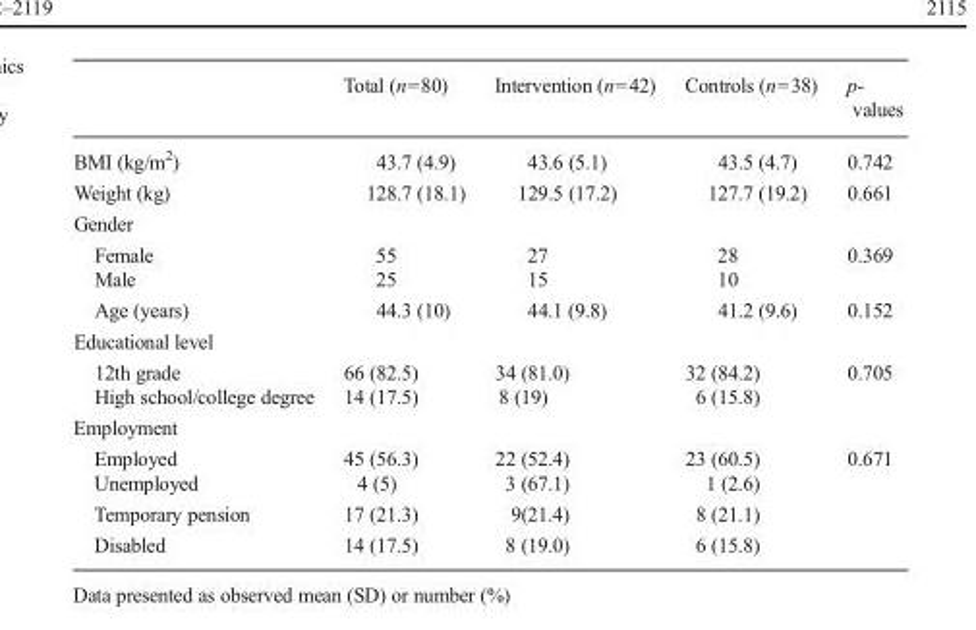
<table><thead><tr><td></td><td>Total (n=80)</td><td>Intervention (n=42)</td><td>Controls (n=38)</td><td>p- values</td></tr></thead><tbody><tr><td>BMI (kg/m<sup>2</sup>)</td><td>43.7 (4.9)</td><td>43.6 (5.1)</td><td>43.5 (4.7)</td><td>0.742</td></tr><tr><td>Weight (kg)</td><td>128.7 (18.1)</td><td>129.5 (17.2)</td><td>127.7 (19.2)</td><td>0.661</td></tr><tr><td colspan="5">Gender</td></tr><tr><td>Female</td><td>55</td><td>27</td><td>28</td><td rowspan="2">0.369</td></tr><tr><td>Male</td><td>25</td><td>15</td><td>10</td></tr><tr><td>Age (years)</td><td>44.3 (10)</td><td>44.1 (9.8)</td><td>41.2 (9.6)</td><td>0.152</td></tr><tr><td colspan="5">Educational level</td></tr><tr><td>12th grade</td><td>66 (82.5)</td><td>34 (81.0)</td><td>32 (84.2)</td><td rowspan="2">0.705</td></tr><tr><td>High school/college degree</td><td>14 (17.5)</td><td>8 (19)</td><td>6 (15.8)</td></tr><tr><td colspan="5">Employment</td></tr><tr><td>Employed</td><td>45 (56.3)</td><td>22 (52.4)</td><td>23 (60.5)</td><td rowspan="4">0.671</td></tr><tr><td>Unemployed</td><td>4 (5)</td><td>3 (67.1)</td><td>1 (2.6)</td></tr><tr><td>Temporary pension</td><td>17 (21.3)</td><td>9(21.4)</td><td>8 (21.1)</td></tr><tr><td>Disabled</td><td>14 (17.5)</td><td>8 (19.0)</td><td>6 (15.8)</td></tr></tbody></table>